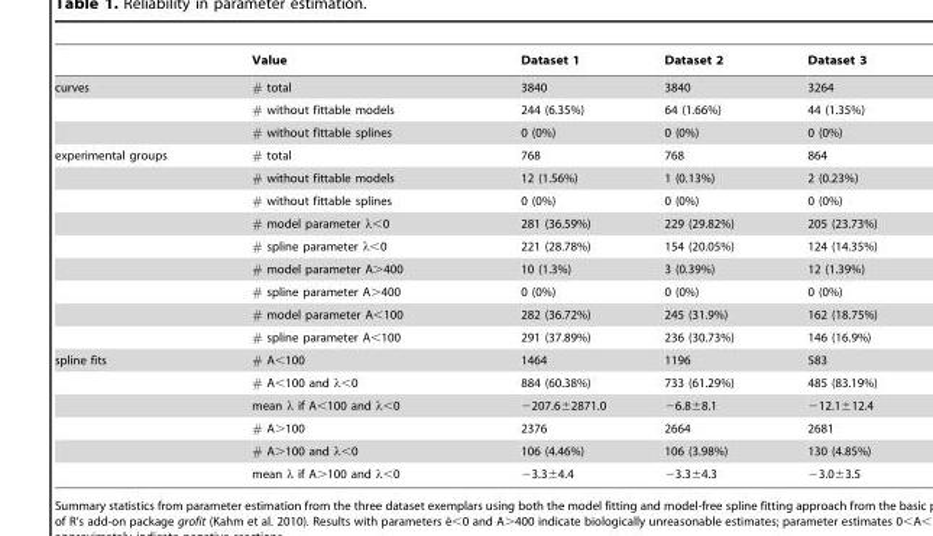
<table><thead><tr><td></td><td>Value</td><td>Dataset 1</td><td>Dataset 2</td><td>Dataset 3</td></tr></thead><tbody><tr><td rowspan="3">curves</td><td># total</td><td>3840</td><td>3840</td><td>3264</td></tr><tr><td># without fittable models</td><td>244 (6.35%)</td><td>64 (1.66%)</td><td>44 (1.35%)</td></tr><tr><td># without fittable splines</td><td>0 (0%)</td><td>0 (0%)</td><td>0 (0%)</td></tr><tr><td rowspan="9">experimental groups</td><td># total</td><td>768</td><td>768</td><td>864</td></tr><tr><td># without fittable models</td><td>12 (1.56%)</td><td>1 (0.13%)</td><td>2 (0.23%)</td></tr><tr><td># without fittable splines</td><td>0 (0%)</td><td>0 (0%)</td><td>0 (0%)</td></tr><tr><td># model parameter λ&lt;0</td><td>281 (36.59%)</td><td>229 (29.82%)</td><td>205 (23.73%)</td></tr><tr><td># spline parameter λ&lt;0</td><td>221 (28.78%)</td><td>154 (20.05%)</td><td>124 (14.35%)</td></tr><tr><td># model parameter A&gt;400</td><td>10 (1.3%)</td><td>3 (0.39%)</td><td>12 (1.39%)</td></tr><tr><td># spline parameter A&gt;400</td><td>0 (0%)</td><td>0 (0%)</td><td>0 (0%)</td></tr><tr><td># model parameter A&lt;100</td><td>282 (36.72%)</td><td>245 (31.9%)</td><td>162 (18.75%)</td></tr><tr><td># spline parameter A&lt;100</td><td>291 (37.89%)</td><td>236 (30.73%)</td><td>146 (16.9%)</td></tr><tr><td rowspan="6">spline fits</td><td># A&lt;100</td><td>1464</td><td>1196</td><td>583</td></tr><tr><td># A&lt;100 and λ&lt;0</td><td>884 (60.38%)</td><td>733 (61.29%)</td><td>485 (83.19%)</td></tr><tr><td>mean λ if A&lt;100 and λ&lt;0</td><td>−207.6±2871.0</td><td>−6.8±8.1</td><td>−12.1±12.4</td></tr><tr><td># A&gt;100</td><td>2376</td><td>2664</td><td>2681</td></tr><tr><td># A&gt;100 and λ&lt;0</td><td>106 (4.46%)</td><td>106 (3.98%)</td><td>130 (4.85%)</td></tr><tr><td>mean λ if A&gt;100 and λ&lt;0</td><td>−3.3±4.4</td><td>−3.3±4.3</td><td>−3.0±3.5</td></tr></tbody></table>